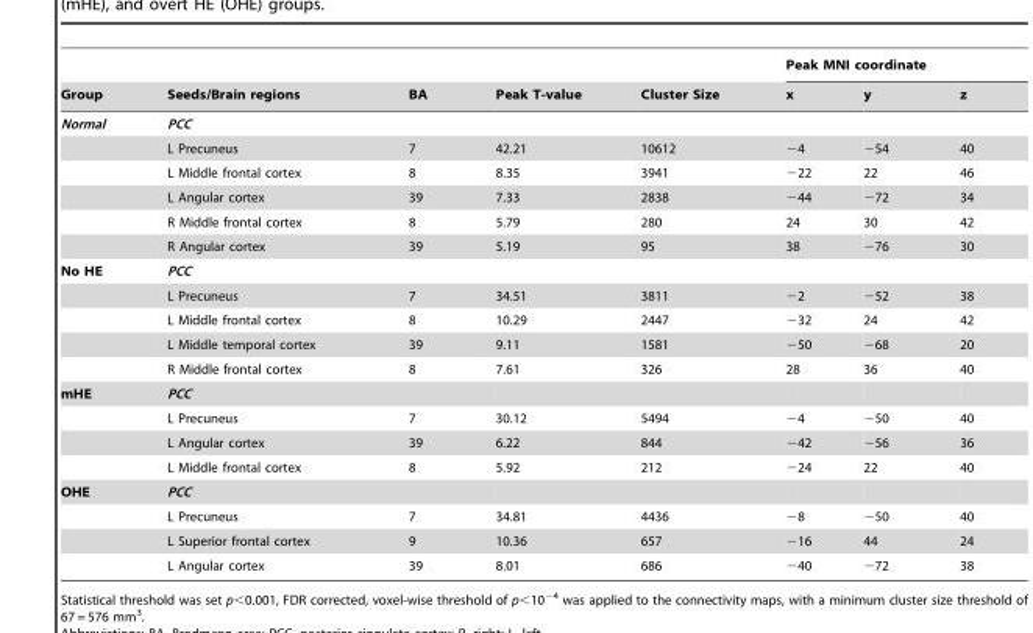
<table><thead><tr><td rowspan="2">Group</td><td rowspan="2">Seeds/Brain regions</td><td rowspan="2">BA</td><td rowspan="2">Peak T-value</td><td rowspan="2">Cluster Size</td><td colspan="3">Peak MNI coordinate</td></tr><tr><td>x</td><td>y</td><td>z</td></tr></thead><tbody><tr><td rowspan="6">Normal</td><td>PCC</td><td></td><td></td><td></td><td></td><td></td><td></td></tr><tr><td>L Precuneus</td><td>7</td><td>42.21</td><td>10612</td><td>−4</td><td>−54</td><td>40</td></tr><tr><td>L Middle frontal cortex</td><td>8</td><td>8.35</td><td>3941</td><td>−22</td><td>22</td><td>46</td></tr><tr><td>L Angular cortex</td><td>39</td><td>7.33</td><td>2838</td><td>−44</td><td>−72</td><td>34</td></tr><tr><td>R Middle frontal cortex</td><td>8</td><td>5.79</td><td>280</td><td>24</td><td>30</td><td>42</td></tr><tr><td>R Angular cortex</td><td>39</td><td>5.19</td><td>95</td><td>38</td><td>−76</td><td>30</td></tr><tr><td rowspan="5">No HE</td><td>PCC</td><td></td><td></td><td></td><td></td><td></td><td></td></tr><tr><td>L Precuneus</td><td>7</td><td>34.51</td><td>3811</td><td>−2</td><td>−52</td><td>38</td></tr><tr><td>L Middle frontal cortex</td><td>8</td><td>10.29</td><td>2447</td><td>−32</td><td>24</td><td>42</td></tr><tr><td>L Middle temporal cortex</td><td>39</td><td>9.11</td><td>1581</td><td>−50</td><td>−68</td><td>20</td></tr><tr><td>R Middle frontal cortex</td><td>8</td><td>7.61</td><td>326</td><td>28</td><td>36</td><td>40</td></tr><tr><td rowspan="4">mHE</td><td>PCC</td><td></td><td></td><td></td><td></td><td></td><td></td></tr><tr><td>L Precuneus</td><td>7</td><td>30.12</td><td>5494</td><td>−4</td><td>−50</td><td>40</td></tr><tr><td>L Angular cortex</td><td>39</td><td>6.22</td><td>844</td><td>−42</td><td>−56</td><td>36</td></tr><tr><td>L Middle frontal cortex</td><td>8</td><td>5.92</td><td>212</td><td>−24</td><td>22</td><td>40</td></tr><tr><td rowspan="4">OHE</td><td>PCC</td><td></td><td></td><td></td><td></td><td></td><td></td></tr><tr><td>L Precuneus</td><td>7</td><td>34.81</td><td>4436</td><td>−8</td><td>−50</td><td>40</td></tr><tr><td>L Superior frontal cortex</td><td>9</td><td>10.36</td><td>657</td><td>−16</td><td>44</td><td>24</td></tr><tr><td>L Angular cortex</td><td>39</td><td>8.01</td><td>686</td><td>−40</td><td>−72</td><td>38</td></tr></tbody></table>